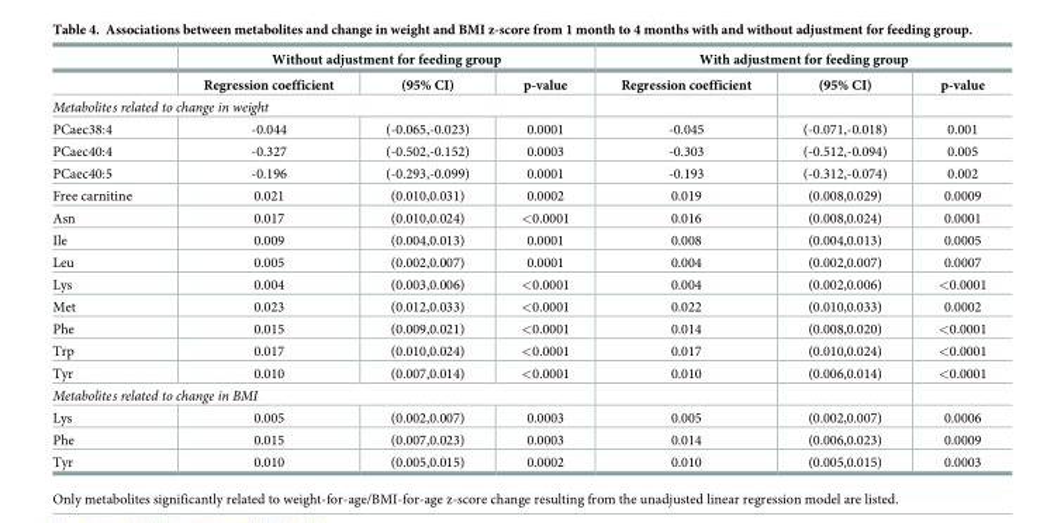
<table><thead><tr><td rowspan="2"></td><td colspan="3">Without adjustment for feeding group</td><td colspan="3">With adjustment for feeding group</td></tr><tr><td>Regression coefficient</td><td>(95% CI)</td><td>p-value</td><td>Regression coefficient</td><td>(95% CI)</td><td>p-value</td></tr></thead><tbody><tr><td colspan="7">Metabolites related to change in weight</td></tr><tr><td>PCaec38:4</td><td>-0.044</td><td>(-0.065,-0.023)</td><td>0.0001</td><td>-0.045</td><td>(-0.071,-0.018)</td><td>0.001</td></tr><tr><td>PCaec40:4</td><td>-0.327</td><td>(-0.502,-0.152)</td><td>0.0003</td><td>-0.303</td><td>(-0.512,-0.094)</td><td>0.005</td></tr><tr><td>PCaec40:5</td><td>-0.196</td><td>(-0.293,-0.099)</td><td>0.0001</td><td>-0.193</td><td>(-0.312,-0.074)</td><td>0.002</td></tr><tr><td>Free carnitine</td><td>0.021</td><td>(0.010,0.031)</td><td>0.0002</td><td>0.019</td><td>(0.008,0.029)</td><td>0.0009</td></tr><tr><td>Asn</td><td>0.017</td><td>(0.010,0.024)</td><td>&lt;0.0001</td><td>0.016</td><td>(0.008,0.024)</td><td>0.0001</td></tr><tr><td>Ile</td><td>0.009</td><td>(0.004,0.013)</td><td>0.0001</td><td>0.008</td><td>(0.004,0.013)</td><td>0.0005</td></tr><tr><td>Leu</td><td>0.005</td><td>(0.002,0.007)</td><td>0.0001</td><td>0.004</td><td>(0.002,0.007)</td><td>0.0007</td></tr><tr><td>Lys</td><td>0.004</td><td>(0.003,0.006)</td><td>&lt;0.0001</td><td>0.004</td><td>(0.002,0.006)</td><td>&lt;0.0001</td></tr><tr><td>Met</td><td>0.023</td><td>(0.012,0.033)</td><td>&lt;0.0001</td><td>0.022</td><td>(0.010,0.033)</td><td>0.0002</td></tr><tr><td>Phe</td><td>0.015</td><td>(0.009,0.021)</td><td>&lt;0.0001</td><td>0.014</td><td>(0.008,0.020)</td><td>&lt;0.0001</td></tr><tr><td>Trp</td><td>0.017</td><td>(0.010,0.024)</td><td>&lt;0.0001</td><td>0.017</td><td>(0.010,0.024)</td><td>&lt;0.0001</td></tr><tr><td>Tyr</td><td>0.010</td><td>(0.007,0.014)</td><td>&lt;0.0001</td><td>0.010</td><td>(0.006,0.014)</td><td>&lt;0.0001</td></tr><tr><td colspan="7">Metabolites related to change in BMI</td></tr><tr><td>Lys</td><td>0.005</td><td>(0.002,0.007)</td><td>0.0003</td><td>0.005</td><td>(0.002,0.007)</td><td>0.0006</td></tr><tr><td>Phe</td><td>0.015</td><td>(0.007,0.023)</td><td>0.0003</td><td>0.014</td><td>(0.006,0.023)</td><td>0.0009</td></tr><tr><td>Tyr</td><td>0.010</td><td>(0.005,0.015)</td><td>0.0002</td><td>0.010</td><td>(0.005,0.015)</td><td>0.0003</td></tr></tbody></table>